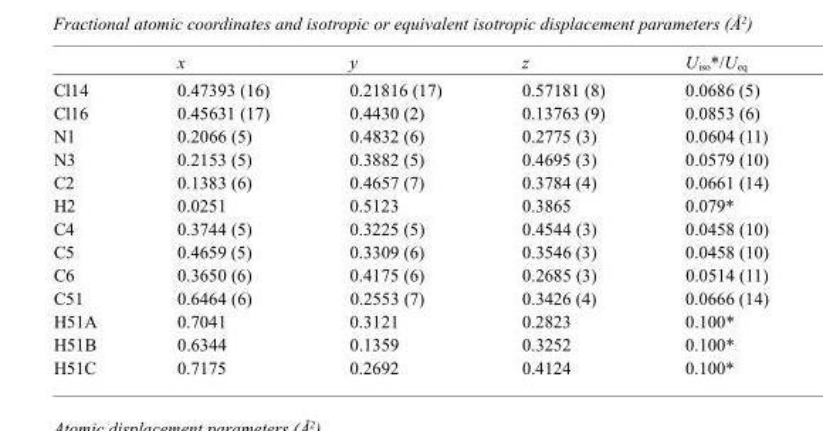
<table><thead><tr><td></td><td>x</td><td>y</td><td>z</td><td>U<sub>iso</sub>*/U<sub>eq</sub></td></tr></thead><tbody><tr><td>Cl14</td><td>0.47393 (16)</td><td>0.21816 (17)</td><td>0.57181 (8)</td><td>0.0686 (5)</td></tr><tr><td>Cl16</td><td>0.45631 (17)</td><td>0.4430 (2)</td><td>0.13763 (9)</td><td>0.0853 (6)</td></tr><tr><td>N1</td><td>0.2066 (5)</td><td>0.4832 (6)</td><td>0.2775 (3)</td><td>0.0604 (11)</td></tr><tr><td>N3</td><td>0.2153 (5)</td><td>0.3882 (5)</td><td>0.4695 (3)</td><td>0.0579 (10)</td></tr><tr><td>C2</td><td>0.1383 (6)</td><td>0.4657 (7)</td><td>0.3784 (4)</td><td>0.0661 (14)</td></tr><tr><td>H2</td><td>0.0251</td><td>0.5123</td><td>0.3865</td><td>0.079*</td></tr><tr><td>C4</td><td>0.3744 (5)</td><td>0.3225 (5)</td><td>0.4544 (3)</td><td>0.0458 (10)</td></tr><tr><td>C5</td><td>0.4659 (5)</td><td>0.3309 (6)</td><td>0.3546 (3)</td><td>0.0458 (10)</td></tr><tr><td>C6</td><td>0.3650 (6)</td><td>0.4175 (6)</td><td>0.2685 (3)</td><td>0.0514 (11)</td></tr><tr><td>C51</td><td>0.6464 (6)</td><td>0.2553 (7)</td><td>0.3426 (4)</td><td>0.0666 (14)</td></tr><tr><td>H51A</td><td>0.7041</td><td>0.3121</td><td>0.2823</td><td>0.100*</td></tr><tr><td>H51B</td><td>0.6344</td><td>0.1359</td><td>0.3252</td><td>0.100*</td></tr><tr><td>H51C</td><td>0.7175</td><td>0.2692</td><td>0.4124</td><td>0.100*</td></tr></tbody></table>